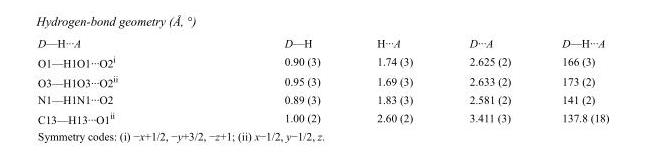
<table><tbody><tr><td>D—H···A</td><td>D—H</td><td>H···A</td><td>D···A</td><td>D—H···A</td></tr><tr><td>O1—H1O1···O2<sup>i</sup></td><td>0.90 (3)</td><td>1.74 (3)</td><td>2.625 (2)</td><td>166 (3)</td></tr><tr><td>O3—H1O3···O2<sup>ii</sup></td><td>0.95 (3)</td><td>1.69 (3)</td><td>2.633 (2)</td><td>173 (2)</td></tr><tr><td>N1—H1N1···O2</td><td>0.89 (3)</td><td>1.83 (3)</td><td>2.581 (2)</td><td>141 (2)</td></tr><tr><td>C13—H13···O1<sup>ii</sup></td><td>1.00 (2)</td><td>2.60 (2)</td><td>3.411 (3)</td><td>137.8 (18)</td></tr></tbody></table>